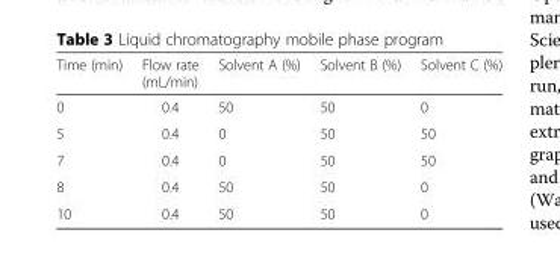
<table><thead><tr><td>Time (min)</td><td>Flow rate (mL/min)</td><td>Solvent A (%)</td><td>Solvent B (%)</td><td>Solvent C (%)</td></tr></thead><tbody><tr><td>0</td><td>0.4</td><td>50</td><td>50</td><td>0</td></tr><tr><td>5</td><td>0.4</td><td>0</td><td>50</td><td>50</td></tr><tr><td>7</td><td>0.4</td><td>0</td><td>50</td><td>50</td></tr><tr><td>8</td><td>0.4</td><td>50</td><td>50</td><td>0</td></tr><tr><td>10</td><td>0.4</td><td>50</td><td>50</td><td>0</td></tr></tbody></table>